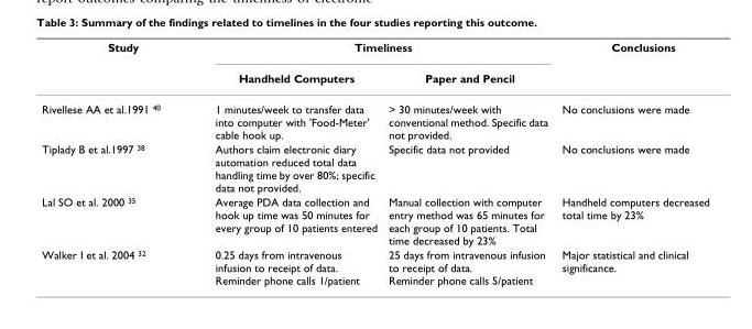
<table><thead><tr><td rowspan="2">Study</td><td colspan="2">Timeliness</td><td rowspan="2">Conclusions</td></tr><tr><td>Handheld Computers</td><td>Paper and Pencil</td></tr></thead><tbody><tr><td>Rivellese AA et al.1991 <sup>40</sup></td><td>1 minutes/week to transfer data into computer with &#x27;Food-Meter&#x27; cable hook up.</td><td>&gt; 30 minutes/week with conventional method. Specific data not provided.</td><td>No conclusions were made</td></tr><tr><td>Tiplady B et al.1997 <sup>38</sup></td><td>Authors claim electronic diary automation reduced total data handling time by over 80%; specific data not provided.</td><td>Specific data not provided</td><td>No conclusions were made</td></tr><tr><td>Lal SO et al. 2000 <sup>35</sup></td><td>Average PDA data collection and hook up time was 50 minutes for every group of 10 patients entered</td><td>Manual collection with computer entry method was 65 minutes for each group of 10 patients. Total time decreased by 23%</td><td>Handheld computers decreased total time by 23%</td></tr><tr><td>Walker I et al. 2004 <sup>32</sup></td><td>0.25 days from intravenous infusion to receipt of data. Reminder phone calls 1/patient</td><td>25 days from intravenous infusion to receipt of data. Reminder phone calls 5/patient</td><td>Major statistical and clinical significance.</td></tr></tbody></table>